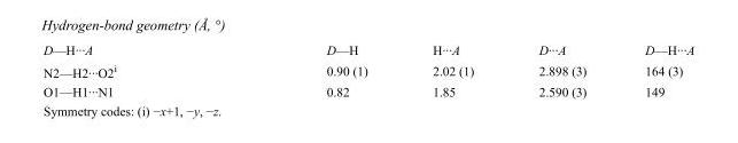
<table><tbody><tr><td>D—H···A</td><td>D—H</td><td>H···A</td><td>D···A</td><td>D—H···A</td></tr><tr><td>N2—H2···O2<sup>i</sup></td><td>0.90 (1)</td><td>2.02 (1)</td><td>2.898 (3)</td><td>164 (3)</td></tr><tr><td>O1—H1···N1</td><td>0.82</td><td>1.85</td><td>2.590 (3)</td><td>149</td></tr></tbody></table>